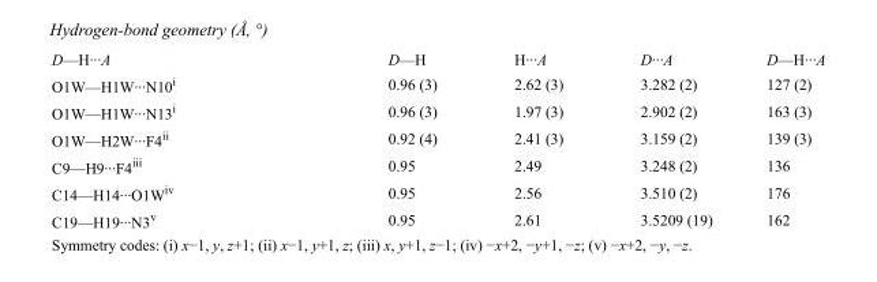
<table><tbody><tr><td>D—H···A</td><td>D—H</td><td>H···A</td><td>D···A</td><td>D—H···A</td></tr><tr><td>O1W—H1W···N10<sup>i</sup></td><td>0.96 (3)</td><td>2.62 (3)</td><td>3.282 (2)</td><td>127 (2)</td></tr><tr><td>O1W—H1W···N13<sup>i</sup></td><td>0.96 (3)</td><td>1.97 (3)</td><td>2.902 (2)</td><td>163 (3)</td></tr><tr><td>O1W—H2W···F4<sup>ii</sup></td><td>0.92 (4)</td><td>2.41 (3)</td><td>3.159 (2)</td><td>139 (3)</td></tr><tr><td>C9—H9···F4<sup>iii</sup></td><td>0.95</td><td>2.49</td><td>3.248 (2)</td><td>136</td></tr><tr><td>C14—H14···O1W<sup>iv</sup></td><td>0.95</td><td>2.56</td><td>3.510 (2)</td><td>176</td></tr><tr><td>C19—H19···N3<sup>v</sup></td><td>0.95</td><td>2.61</td><td>3.5209 (19)</td><td>162</td></tr></tbody></table>